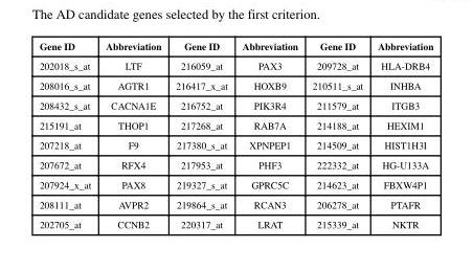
<table><thead><tr><td>Gene ID</td><td>Abbreviation</td><td>Gene ID</td><td>Abbreviation</td><td>Gene ID</td><td>Abbreviation</td></tr></thead><tbody><tr><td>202018_s_at</td><td>LTF</td><td>216059_at</td><td>PAX3</td><td>209728_at</td><td>HLA-DRB4</td></tr><tr><td>208016_s_at</td><td>AGTR1</td><td>216417_x_at</td><td>HOXB9</td><td>210511_s_at</td><td>INHBA</td></tr><tr><td>208432_s_at</td><td>CACNA1E</td><td>216752_at</td><td>PIK3R4</td><td>211579_at</td><td>ITGB3</td></tr><tr><td>215191_at</td><td>THOP1</td><td>217268_at</td><td>RAB7A</td><td>214188_at</td><td>HEXIM1</td></tr><tr><td>207218_at</td><td>F9</td><td>217380_s_at</td><td>XPNPEP1</td><td>214509_at</td><td>HIST1H3I</td></tr><tr><td>207672_at</td><td>RFX4</td><td>217953_at</td><td>PHF3</td><td>222332_at</td><td>HG-U133A</td></tr><tr><td>207924_x_at</td><td>PAX8</td><td>219327_s_at</td><td>GPRC5C</td><td>214623_at</td><td>FBXW4P1</td></tr><tr><td>208111_at</td><td>AVPR2</td><td>219864_s_at</td><td>RCAN3</td><td>206278_at</td><td>PTAFR</td></tr><tr><td>202705_at</td><td>CCNB2</td><td>220317_at</td><td>LRAT</td><td>215339_at</td><td>NKTR</td></tr></tbody></table>